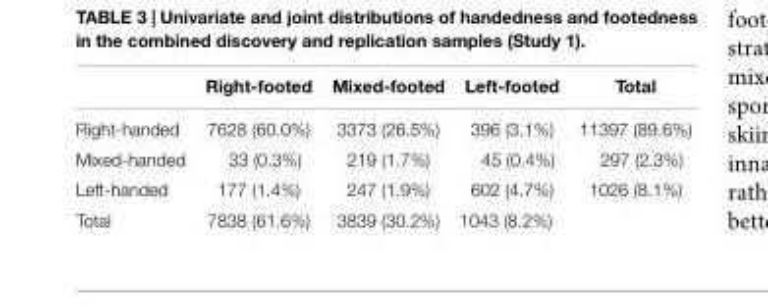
<table><thead><tr><td></td><td>Right-footed</td><td>Mixed-footed</td><td>Left-footed</td><td>Total</td></tr></thead><tbody><tr><td>Right-handed</td><td>7628 (60.0%)</td><td>3373 (26.5%)</td><td>396 (3.1%)</td><td>11397 (89.6%)</td></tr><tr><td>Mixed-handed</td><td>33 (0.3%)</td><td>219 (1.7%)</td><td>45 (0.4%)</td><td>297 (2.3%)</td></tr><tr><td>Left-handed</td><td>177 (1.4%)</td><td>247 (1.9%)</td><td>602 (4.7%)</td><td>1026 (8.1%)</td></tr><tr><td>Total</td><td>7838 (61.6%)</td><td>3839 (30.2%)</td><td>1043 (8.2%)</td><td></td></tr></tbody></table>